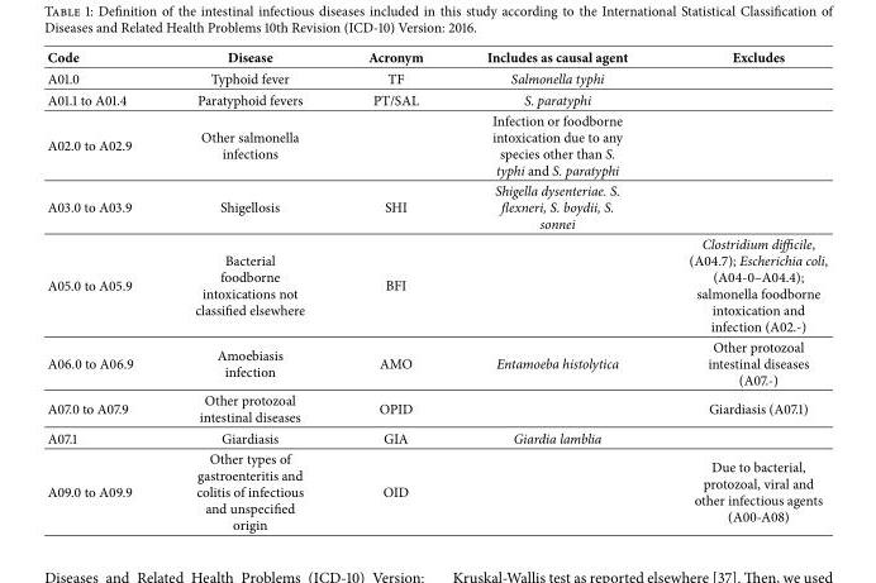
<table><thead><tr><td>Code</td><td>Disease</td><td>Acronym</td><td>Includes as causal agent</td><td>Excludes</td></tr></thead><tbody><tr><td>A01.0</td><td>Typhoid fever</td><td>TF</td><td>Salmonella typhi</td><td></td></tr><tr><td>A01.1 to A01.4</td><td>Paratyphoid fevers</td><td>PT/SAL</td><td>S. paratyphi</td><td></td></tr><tr><td>A02.0 to A02.9</td><td>Other salmonella infections</td><td></td><td>Infection or foodborne intoxication due to any species other than S. typhi and S. paratyphi</td><td></td></tr><tr><td>A03.0 to A03.9</td><td>Shigellosis</td><td>SHI</td><td>Shigella dysenteriae. S. flexneri, S. boydii, S. sonnei</td><td></td></tr><tr><td>A05.0 to A05.9</td><td>Bacterial foodborne intoxications not classified elsewhere</td><td>BFI</td><td></td><td>Clostridium difficile, (A04.7); Escherichia coli, (A04-0–A04.4); salmonella foodborne intoxication and infection (A02.-)</td></tr><tr><td>A06.0 to A06.9</td><td>Amoebiasis infection</td><td>AMO</td><td>Entamoeba histolytica</td><td>Other protozoal intestinal diseases (A07.-)</td></tr><tr><td>A07.0 to A07.9</td><td>Other protozoal intestinal diseases</td><td>OPID</td><td></td><td>Giardiasis (A07.1)</td></tr><tr><td>A07.1</td><td>Giardiasis</td><td>GIA</td><td>Giardia lamblia</td><td></td></tr><tr><td>A09.0 to A09.9</td><td>Other types of gastroenteritis and colitis of infectious and unspecified origin</td><td>OID</td><td></td><td>Due to bacterial, protozoal, viral and other infectious agents (A00-A08)</td></tr></tbody></table>